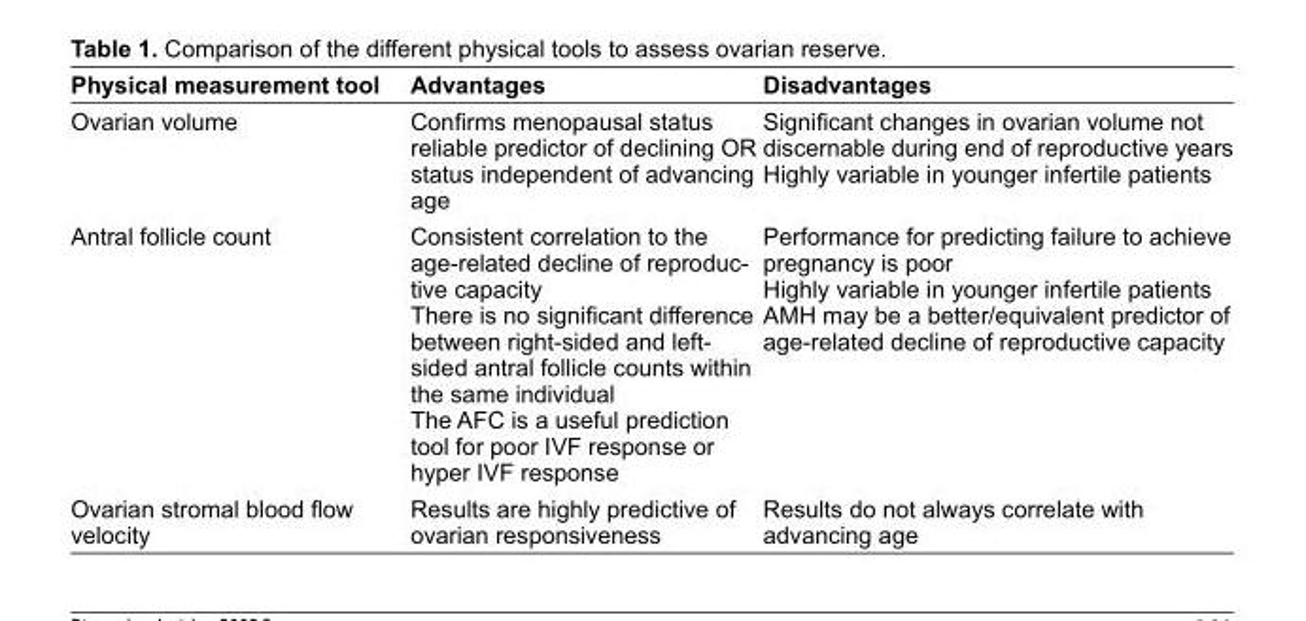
<table><thead><tr><td>Physical measurement tool</td><td>Advantages</td><td>Disadvantages</td></tr></thead><tbody><tr><td>Ovarian volume</td><td>Confi rms menopausal status reliable predictor of declining OR status independent of advancing age</td><td>Signifi cant changes in ovarian volume not discernable during end of reproductive years Highly variable in younger infertile patients</td></tr><tr><td>Antral follicle count</td><td>Consistent correlation to the age-related decline of reproduc- tive capacity There is no signifi cant difference between right-sided and left- sided antral follicle counts within the same individual The AFC is a useful prediction tool for poor IVF response or hyper IVF response</td><td>Performance for predicting failure to achieve pregnancy is poor Highly variable in younger infertile patients AMH may be a better/equivalent predictor of age-related decline of reproductive capacity</td></tr><tr><td>Ovarian stromal blood fl ow velocity</td><td>Results are highly predictive of ovarian responsiveness</td><td>Results do not always correlate with advancing age</td></tr></tbody></table>